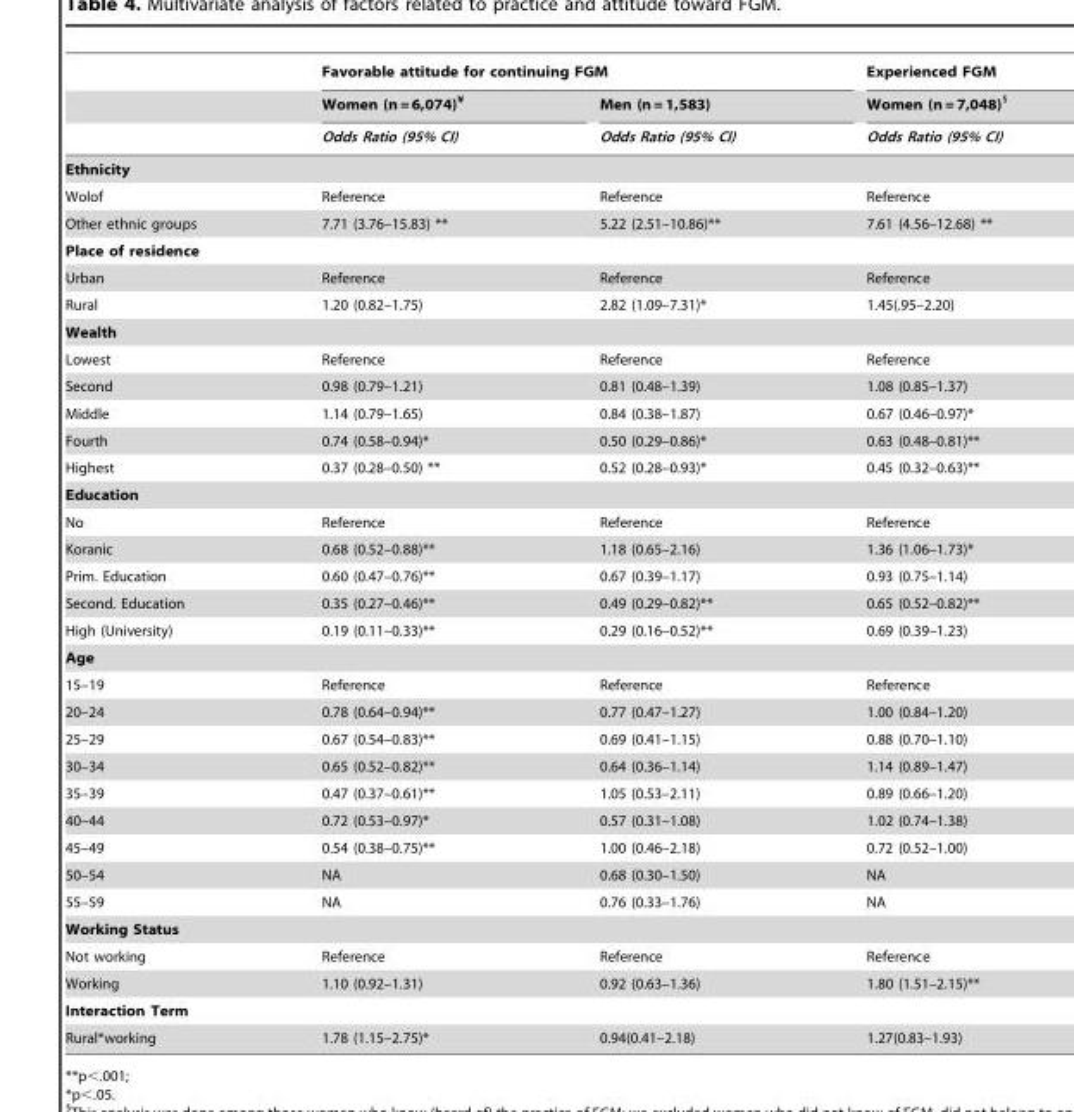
<table><thead><tr><td rowspan="3"></td><td colspan="2">Favorable attitude for continuing FGM</td><td rowspan="3">Experienced FGM Women (n = 7,048)§ Odds Ratio (95% CI)</td></tr><tr><td rowspan="2">Women (n = 6,074)¥ Odds Ratio (95% CI)</td><td rowspan="2">Men (n = 1,583) Odds Ratio (95% CI)</td></tr><tr></tr></thead><tbody><tr><td colspan="4">Ethnicity</td></tr><tr><td>Wolof</td><td>Reference</td><td>Reference</td><td>Reference</td></tr><tr><td>Other ethnic groups</td><td>7.71 (3.76–15.83) **</td><td>5.22 (2.51–10.86)**</td><td>7.61 (4.56–12.68) **</td></tr><tr><td colspan="4">Place of residence</td></tr><tr><td>Urban</td><td>Reference</td><td>Reference</td><td>Reference</td></tr><tr><td>Rural</td><td>1.20 (0.82–1.75)</td><td>2.82 (1.09–7.31)*</td><td>1.45(.95–2.20)</td></tr><tr><td colspan="4">Wealth</td></tr><tr><td>Lowest</td><td>Reference</td><td>Reference</td><td>Reference</td></tr><tr><td>Second</td><td>0.98 (0.79–1.21)</td><td>0.81 (0.48–1.39)</td><td>1.08 (0.85–1.37)</td></tr><tr><td>Middle</td><td>1.14 (0.79–1.65)</td><td>0.84 (0.38–1.87)</td><td>0.67 (0.46–0.97)*</td></tr><tr><td>Fourth</td><td>0.74 (0.58–0.94)*</td><td>0.50 (0.29–0.86)*</td><td>0.63 (0.48–0.81)**</td></tr><tr><td>Highest</td><td>0.37 (0.28–0.50) **</td><td>0.52 (0.28–0.93)*</td><td>0.45 (0.32–0.63)**</td></tr><tr><td colspan="4">Education</td></tr><tr><td>No</td><td>Reference</td><td>Reference</td><td>Reference</td></tr><tr><td>Koranic</td><td>0.68 (0.52–0.88)**</td><td>1.18 (0.65–2.16)</td><td>1.36 (1.06–1.73)*</td></tr><tr><td>Prim. Education</td><td>0.60 (0.47–0.76)**</td><td>0.67 (0.39–1.17)</td><td>0.93 (0.75–1.14)</td></tr><tr><td>Second. Education</td><td>0.35 (0.27–0.46)**</td><td>0.49 (0.29–0.82)**</td><td>0.65 (0.52–0.82)**</td></tr><tr><td>High (University)</td><td>0.19 (0.11–0.33)**</td><td>0.29 (0.16–0.52)**</td><td>0.69 (0.39–1.23)</td></tr><tr><td colspan="4">Age</td></tr><tr><td>15–19</td><td>Reference</td><td>Reference</td><td>Reference</td></tr><tr><td>20–24</td><td>0.78 (0.64–0.94)**</td><td>0.77 (0.47–1.27)</td><td>1.00 (0.84–1.20)</td></tr><tr><td>25–29</td><td>0.67 (0.54–0.83)**</td><td>0.69 (0.41–1.15)</td><td>0.88 (0.70–1.10)</td></tr><tr><td>30–34</td><td>0.65 (0.52–0.82)**</td><td>0.64 (0.36–1.14)</td><td>1.14 (0.89–1.47)</td></tr><tr><td>35–39</td><td>0.47 (0.37–0.61)**</td><td>1.05 (0.53–2.11)</td><td>0.89 (0.66–1.20)</td></tr><tr><td>40–44</td><td>0.72 (0.53–0.97)*</td><td>0.57 (0.31–1.08)</td><td>1.02 (0.74–1.38)</td></tr><tr><td>45–49</td><td>0.54 (0.38–0.75)**</td><td>1.00 (0.46–2.18)</td><td>0.72 (0.52–1.00)</td></tr><tr><td>50–54</td><td>NA</td><td>0.68 (0.30–1.50)</td><td>NA</td></tr><tr><td>55–59</td><td>NA</td><td>0.76 (0.33–1.76)</td><td>NA</td></tr><tr><td colspan="4">Working Status</td></tr><tr><td>Not working</td><td>Reference</td><td>Reference</td><td>Reference</td></tr><tr><td>Working</td><td>1.10 (0.92–1.31)</td><td>0.92 (0.63–1.36)</td><td>1.80 (1.51–2.15)**</td></tr><tr><td colspan="4">Interaction Term</td></tr><tr><td>Rural*working</td><td>1.78 (1.15–2.75)*</td><td>0.94(0.41–2.18)</td><td>1.27(0.83–1.93)</td></tr></tbody></table>